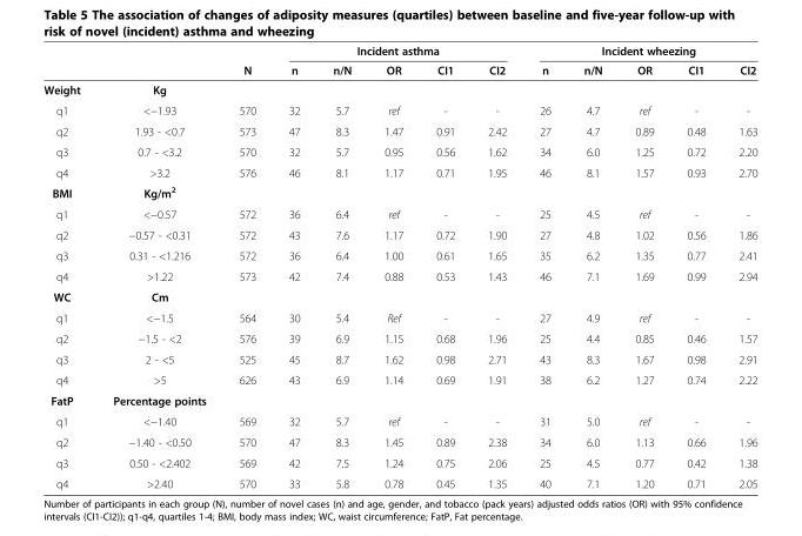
<table><thead><tr><td rowspan="2"></td><td rowspan="2"></td><td rowspan="2">N</td><td colspan="5">Incident asthma</td><td colspan="5">Incident wheezing</td></tr><tr><td>n</td><td>n/N</td><td>OR</td><td>CI1</td><td>CI2</td><td>n</td><td>n/N</td><td>OR</td><td>CI1</td><td>CI2</td></tr></thead><tbody><tr><td>Weight</td><td>Kg</td><td></td><td></td><td></td><td></td><td></td><td></td><td></td><td></td><td></td><td></td><td></td></tr><tr><td>q1</td><td>&lt;−1.93</td><td>570</td><td>32</td><td>5.7</td><td>ref</td><td>-</td><td>-</td><td>26</td><td>4.7</td><td>ref</td><td>-</td><td>-</td></tr><tr><td>q2</td><td>1.93 - &lt;0.7</td><td>573</td><td>47</td><td>8.3</td><td>1.47</td><td>0.91</td><td>2.42</td><td>27</td><td>4.7</td><td>0.89</td><td>0.48</td><td>1.63</td></tr><tr><td>q3</td><td>0.7 - &lt;3.2</td><td>570</td><td>32</td><td>5.7</td><td>0.95</td><td>0.56</td><td>1.62</td><td>34</td><td>6.0</td><td>1.25</td><td>0.72</td><td>2.20</td></tr><tr><td>q4</td><td>&gt;3.2</td><td>576</td><td>46</td><td>8.1</td><td>1.17</td><td>0.71</td><td>1.95</td><td>46</td><td>8.1</td><td>1.57</td><td>0.93</td><td>2.70</td></tr><tr><td>BMI</td><td>Kg/m<sup>2</sup></td><td></td><td></td><td></td><td></td><td></td><td></td><td></td><td></td><td></td><td></td><td></td></tr><tr><td>q1</td><td>&lt;−0.57</td><td>572</td><td>36</td><td>6.4</td><td>ref</td><td>-</td><td>-</td><td>25</td><td>4.5</td><td>ref</td><td>-</td><td>-</td></tr><tr><td>q2</td><td>−0.57 - &lt;0.31</td><td>572</td><td>43</td><td>7.6</td><td>1.17</td><td>0.72</td><td>1.90</td><td>27</td><td>4.8</td><td>1.02</td><td>0.56</td><td>1.86</td></tr><tr><td>q3</td><td>0.31 - &lt;1.216</td><td>572</td><td>36</td><td>6.4</td><td>1.00</td><td>0.61</td><td>1.65</td><td>35</td><td>6.2</td><td>1.35</td><td>0.77</td><td>2.41</td></tr><tr><td>q4</td><td>&gt;1.22</td><td>573</td><td>42</td><td>7.4</td><td>0.88</td><td>0.53</td><td>1.43</td><td>46</td><td>7.1</td><td>1.69</td><td>0.99</td><td>2.94</td></tr><tr><td>WC</td><td>Cm</td><td></td><td></td><td></td><td></td><td></td><td></td><td></td><td></td><td></td><td></td><td></td></tr><tr><td>q1</td><td>&lt;−1.5</td><td>564</td><td>30</td><td>5.4</td><td>Ref</td><td>-</td><td>-</td><td>27</td><td>4.9</td><td>ref</td><td>-</td><td>-</td></tr><tr><td>q2</td><td>−1.5 - &lt;2</td><td>576</td><td>39</td><td>6.9</td><td>1.15</td><td>0.68</td><td>1.96</td><td>25</td><td>4.4</td><td>0.85</td><td>0.46</td><td>1.57</td></tr><tr><td>q3</td><td>2 - &lt;5</td><td>525</td><td>45</td><td>8.7</td><td>1.62</td><td>0.98</td><td>2.71</td><td>43</td><td>8.3</td><td>1.67</td><td>0.98</td><td>2.91</td></tr><tr><td>q4</td><td>&gt;5</td><td>626</td><td>43</td><td>6.9</td><td>1.14</td><td>0.69</td><td>1.91</td><td>38</td><td>6.2</td><td>1.27</td><td>0.74</td><td>2.22</td></tr><tr><td>FatP</td><td>Percentage points</td><td></td><td></td><td></td><td></td><td></td><td></td><td></td><td></td><td></td><td></td><td></td></tr><tr><td>q1</td><td>&lt;−1.40</td><td>569</td><td>32</td><td>5.7</td><td>ref</td><td>-</td><td>-</td><td>31</td><td>5.0</td><td>ref</td><td>-</td><td>-</td></tr><tr><td>q2</td><td>−1.40 - &lt;0.50</td><td>570</td><td>47</td><td>8.3</td><td>1.45</td><td>0.89</td><td>2.38</td><td>34</td><td>6.0</td><td>1.13</td><td>0.66</td><td>1.96</td></tr><tr><td>q3</td><td>0.50 - &lt;2.402</td><td>569</td><td>42</td><td>7.5</td><td>1.24</td><td>0.75</td><td>2.06</td><td>25</td><td>4.5</td><td>0.77</td><td>0.42</td><td>1.38</td></tr><tr><td>q4</td><td>&gt;2.40</td><td>570</td><td>33</td><td>5.8</td><td>0.78</td><td>0.45</td><td>1.35</td><td>40</td><td>7.1</td><td>1.20</td><td>0.71</td><td>2.05</td></tr></tbody></table>